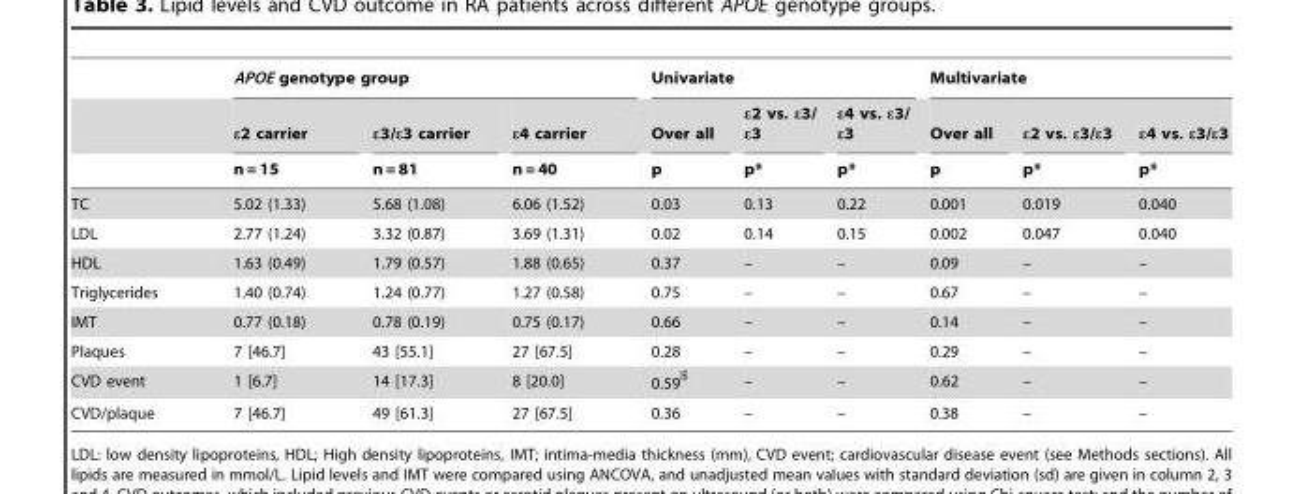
<table><thead><tr><td rowspan="3"></td><td colspan="3">APOE genotype group</td><td colspan="3">Univariate</td><td colspan="3">Multivariate</td></tr><tr><td rowspan="2">ε2 carrier n = 15</td><td rowspan="2">ε3/ε3 carrier n = 81</td><td rowspan="2">ε4 carrier n = 40</td><td rowspan="2">Over all p</td><td rowspan="2">ε2 vs. ε3/ ε3 p*</td><td rowspan="2">ε4 vs. ε3/ ε3 p*</td><td rowspan="2">Over all p</td><td rowspan="2">ε2 vs. ε3/ε3 p*</td><td rowspan="2">ε4 vs. ε3/ε3 p*</td></tr><tr></tr></thead><tbody><tr><td>TC</td><td>5.02 (1.33)</td><td>5.68 (1.08)</td><td>6.06 (1.52)</td><td>0.03</td><td>0.13</td><td>0.22</td><td>0.001</td><td>0.019</td><td>0.040</td></tr><tr><td>LDL</td><td>2.77 (1.24)</td><td>3.32 (0.87)</td><td>3.69 (1.31)</td><td>0.02</td><td>0.14</td><td>0.15</td><td>0.002</td><td>0.047</td><td>0.040</td></tr><tr><td>HDL</td><td>1.63 (0.49)</td><td>1.79 (0.57)</td><td>1.88 (0.65)</td><td>0.37</td><td>–</td><td>–</td><td>0.09</td><td>–</td><td>–</td></tr><tr><td>Triglycerides</td><td>1.40 (0.74)</td><td>1.24 (0.77)</td><td>1.27 (0.58)</td><td>0.75</td><td>–</td><td>–</td><td>0.67</td><td>–</td><td>–</td></tr><tr><td>IMT</td><td>0.77 (0.18)</td><td>0.78 (0.19)</td><td>0.75 (0.17)</td><td>0.66</td><td>–</td><td>–</td><td>0.14</td><td>–</td><td>–</td></tr><tr><td>Plaques</td><td>7 [46.7]</td><td>43 [55.1]</td><td>27 [67.5]</td><td>0.28</td><td>–</td><td>–</td><td>0.29</td><td>–</td><td>–</td></tr><tr><td>CVD event</td><td>1 [6.7]</td><td>14 [17.3]</td><td>8 [20.0]</td><td>0.59$</td><td>–</td><td>–</td><td>0.62</td><td>–</td><td>–</td></tr><tr><td>CVD/plaque</td><td>7 [46.7]</td><td>49 [61.3]</td><td>27 [67.5]</td><td>0.36</td><td>–</td><td>–</td><td>0.38</td><td>–</td><td>–</td></tr></tbody></table>